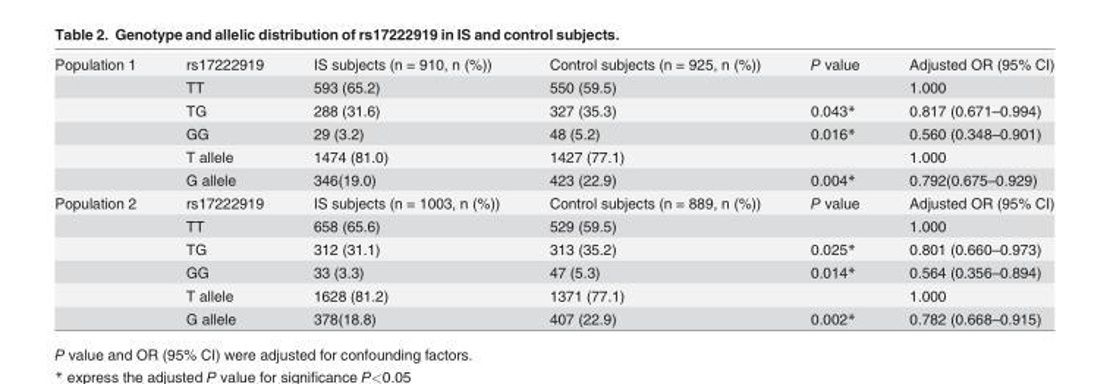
<table><tbody><tr><td rowspan="6">Population 1</td><td>rs17222919</td><td>IS subjects (n = 910, n (%))</td><td>Control subjects (n = 925, n (%))</td><td>P value</td><td>Adjusted OR (95% CI)</td></tr><tr><td>TT</td><td>593 (65.2)</td><td>550 (59.5)</td><td></td><td>1.000</td></tr><tr><td>TG</td><td>288 (31.6)</td><td>327 (35.3)</td><td>0.043*</td><td>0.817 (0.671–0.994)</td></tr><tr><td>GG</td><td>29 (3.2)</td><td>48 (5.2)</td><td>0.016*</td><td>0.560 (0.348–0.901)</td></tr><tr><td>T allele</td><td>1474 (81.0)</td><td>1427 (77.1)</td><td></td><td>1.000</td></tr><tr><td>G allele</td><td>346(19.0)</td><td>423 (22.9)</td><td>0.004*</td><td>0.792(0.675–0.929)</td></tr><tr><td rowspan="6">Population 2</td><td>rs17222919</td><td>IS subjects (n = 1003, n (%))</td><td>Control subjects (n = 889, n (%))</td><td>P value</td><td>Adjusted OR (95% CI)</td></tr><tr><td>TT</td><td>658 (65.6)</td><td>529 (59.5)</td><td></td><td>1.000</td></tr><tr><td>TG</td><td>312 (31.1)</td><td>313 (35.2)</td><td>0.025*</td><td>0.801 (0.660–0.973)</td></tr><tr><td>GG</td><td>33 (3.3)</td><td>47 (5.3)</td><td>0.014*</td><td>0.564 (0.356–0.894)</td></tr><tr><td>T allele</td><td>1628 (81.2)</td><td>1371 (77.1)</td><td></td><td>1.000</td></tr><tr><td>G allele</td><td>378(18.8)</td><td>407 (22.9)</td><td>0.002*</td><td>0.782 (0.668–0.915)</td></tr></tbody></table>